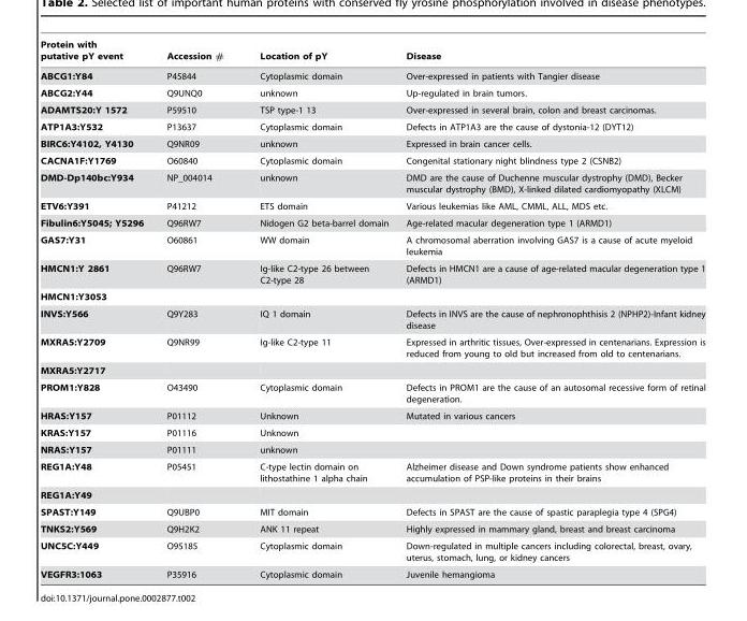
<table><thead><tr><td>Protein with putative pY event</td><td>Accession #</td><td>Location of pY</td><td>Disease</td></tr></thead><tbody><tr><td>ABCG1:Y84</td><td>P45844</td><td>Cytoplasmic domain</td><td>Over-expressed in patients with Tangier disease</td></tr><tr><td>ABCG2:Y44</td><td>Q9UNQ0</td><td>unknown</td><td>Up-regulated in brain tumors.</td></tr><tr><td>ADAMTS20:Y 1572</td><td>P59510</td><td>TSP type-1 13</td><td>Over-expressed in several brain, colon and breast carcinomas.</td></tr><tr><td>ATP1A3:Y532</td><td>P13637</td><td>Cytoplasmic domain</td><td>Defects in ATP1A3 are the cause of dystonia-12 (DYT12)</td></tr><tr><td>BIRC6:Y4102, Y4130</td><td>Q9NR09</td><td>unknown</td><td>Expressed in brain cancer cells.</td></tr><tr><td>CACNA1F:Y1769</td><td>O60840</td><td>Cytoplasmic domain</td><td>Congenital stationary night blindness type 2 (CSNB2)</td></tr><tr><td>DMD-Dp140bc:Y934</td><td>NP_004014</td><td>unknown</td><td>DMD are the cause of Duchenne muscular dystrophy (DMD), Becker muscular dystrophy (BMD), X-linked dilated cardiomyopathy (XLCM)</td></tr><tr><td>ETV6:Y391</td><td>P41212</td><td>ETS domain</td><td>Various leukemias like AML, CMML, ALL, MDS etc.</td></tr><tr><td>Fibulin6:Y5045; Y5296</td><td>Q96RW7</td><td>Nidogen G2 beta-barrel domain</td><td>Age-related macular degeneration type 1 (ARMD1)</td></tr><tr><td>GAS7:Y31</td><td>O60861</td><td>WW domain</td><td>A chromosomal aberration involving GAS7 is a cause of acute myeloid leukemia</td></tr><tr><td>HMCN1:Y 2861</td><td>Q96RW7</td><td>Ig-like C2-type 26 between C2-type 28</td><td>Defects in HMCN1 are a cause of age-related macular degeneration type 1 (ARMD1)</td></tr><tr><td colspan="4">HMCN1:Y3053</td></tr><tr><td>INVS:Y566</td><td>Q9Y283</td><td>IQ 1 domain</td><td>Defects in INVS are the cause of nephronophthisis 2 (NPHP2)-Infant kidney disease</td></tr><tr><td>MXRA5:Y2709</td><td>Q9NR99</td><td>Ig-like C2-type 11</td><td>Expressed in arthritic tissues, Over-expressed in centenarians. Expression is reduced from young to old but increased from old to centenarians.</td></tr><tr><td colspan="4">MXRA5:Y2717</td></tr><tr><td>PROM1:Y828</td><td>O43490</td><td>Cytoplasmic domain</td><td>Defects in PROM1 are the cause of an autosomal recessive form of retinal degeneration.</td></tr><tr><td>HRAS:Y157</td><td>P01112</td><td>Unknown</td><td>Mutated in various cancers</td></tr><tr><td>KRAS:Y157</td><td>P01116</td><td>Unknown</td><td></td></tr><tr><td>NRAS:Y157</td><td>P01111</td><td>unknown</td><td></td></tr><tr><td>REG1A:Y48</td><td>P05451</td><td>C-type lectin domain on lithostathine 1 alpha chain</td><td>Alzheimer disease and Down syndrome patients show enhanced accumulation of PSP-like proteins in their brains</td></tr><tr><td colspan="4">REG1A:Y49</td></tr><tr><td>SPAST:Y149</td><td>Q9UBP0</td><td>MIT domain</td><td>Defects in SPAST are the cause of spastic paraplegia type 4 (SPG4)</td></tr><tr><td>TNKS2:Y569</td><td>Q9H2K2</td><td>ANK 11 repeat</td><td>Highly expressed in mammary gland, breast and breast carcinoma</td></tr><tr><td>UNC5C:Y449</td><td>O95185</td><td>Cytoplasmic domain</td><td>Down-regulated in multiple cancers including colorectal, breast, ovary, uterus, stomach, lung, or kidney cancers</td></tr><tr><td>VEGFR3:1063</td><td>P35916</td><td>Cytoplasmic domain</td><td>Juvenile hemangioma</td></tr></tbody></table>